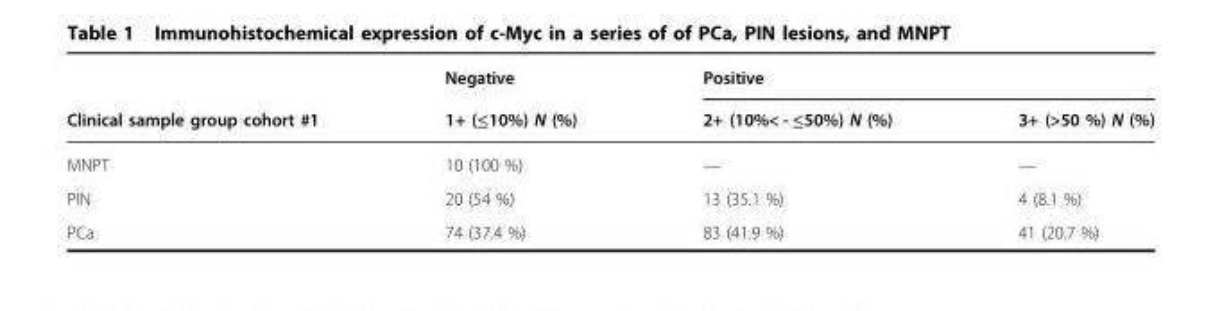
<table><thead><tr><td rowspan="2">Clinical sample group cohort #1</td><td rowspan="2">Negative 1+ (≤10%) N (%)</td><td colspan="2">Positive</td></tr><tr><td>2+ (10%&lt; - ≤50%) N (%)</td><td>3+ (&gt;50 %) N (%)</td></tr></thead><tbody><tr><td>MNPT</td><td>10 (100 %)</td><td>—</td><td>—</td></tr><tr><td>PIN</td><td>20 (54 %)</td><td>13 (35.1 %)</td><td>4 (8.1 %)</td></tr><tr><td>PCa</td><td>74 (37.4 %)</td><td>83 (41.9 %)</td><td>41 (20.7 %)</td></tr></tbody></table>